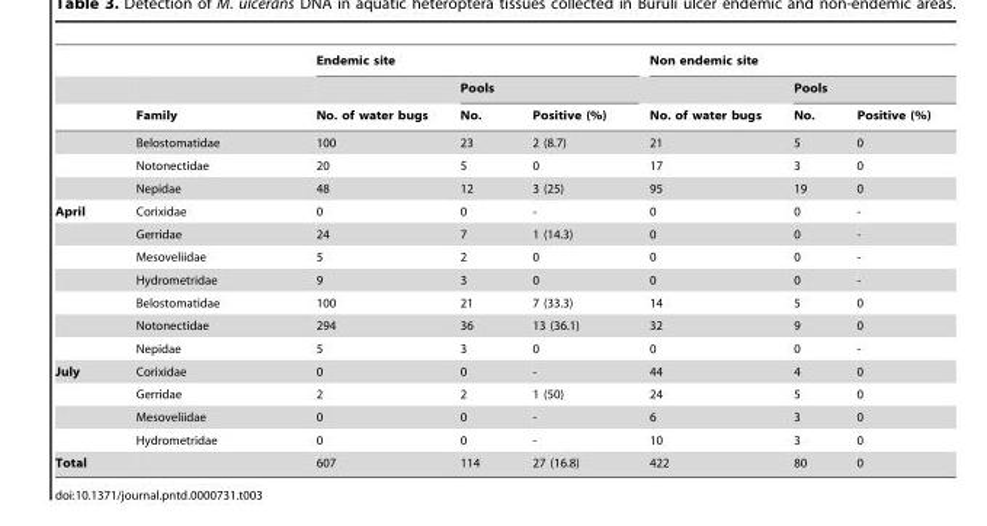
<table><thead><tr><td rowspan="3"></td><td rowspan="3">Family</td><td colspan="3">Endemic site</td><td colspan="3">Non endemic site</td></tr><tr><td rowspan="2">No. of water bugs</td><td colspan="2">Pools</td><td rowspan="2">No. of water bugs</td><td colspan="2">Pools</td></tr><tr><td>No.</td><td>Positive (%)</td><td>No.</td><td>Positive (%)</td></tr></thead><tbody><tr><td></td><td>Belostomatidae</td><td>100</td><td>23</td><td>2 (8.7)</td><td>21</td><td>5</td><td>0</td></tr><tr><td></td><td>Notonectidae</td><td>20</td><td>5</td><td>0</td><td>17</td><td>3</td><td>0</td></tr><tr><td></td><td>Nepidae</td><td>48</td><td>12</td><td>3 (25)</td><td>95</td><td>19</td><td>0</td></tr><tr><td rowspan="7">April</td><td>Corixidae</td><td>0</td><td>0</td><td>-</td><td>0</td><td>0</td><td>-</td></tr><tr><td>Gerridae</td><td>24</td><td>7</td><td>1 (14.3)</td><td>0</td><td>0</td><td>-</td></tr><tr><td>Mesoveliidae</td><td>5</td><td>2</td><td>0</td><td>0</td><td>0</td><td>-</td></tr><tr><td>Hydrometridae</td><td>9</td><td>3</td><td>0</td><td>0</td><td>0</td><td>-</td></tr><tr><td>Belostomatidae</td><td>100</td><td>21</td><td>7 (33.3)</td><td>14</td><td>5</td><td>0</td></tr><tr><td>Notonectidae</td><td>294</td><td>36</td><td>13 (36.1)</td><td>32</td><td>9</td><td>0</td></tr><tr><td>Nepidae</td><td>5</td><td>3</td><td>0</td><td>0</td><td>0</td><td>-</td></tr><tr><td rowspan="4">July</td><td>Corixidae</td><td>0</td><td>0</td><td>-</td><td>44</td><td>4</td><td>0</td></tr><tr><td>Gerridae</td><td>2</td><td>2</td><td>1 (50)</td><td>24</td><td>5</td><td>0</td></tr><tr><td>Mesoveliidae</td><td>0</td><td>0</td><td>-</td><td>6</td><td>3</td><td>0</td></tr><tr><td>Hydrometridae</td><td>0</td><td>0</td><td>-</td><td>10</td><td>3</td><td>0</td></tr><tr><td>Total</td><td></td><td>607</td><td>114</td><td>27 (16.8)</td><td>422</td><td>80</td><td>0</td></tr></tbody></table>